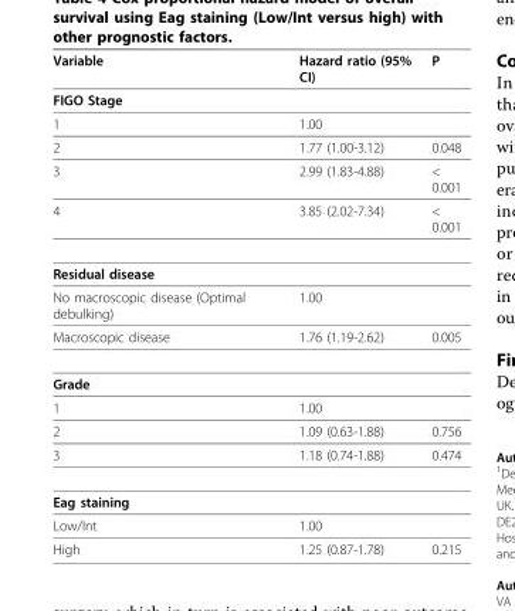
<table><thead><tr><td>Variable</td><td>Hazard ratio (95% CI)</td><td>P</td></tr></thead><tbody><tr><td colspan="3">FIGO Stage</td></tr><tr><td>1</td><td>1.00</td><td></td></tr><tr><td>2</td><td>1.77 (1.00-3.12)</td><td>0.048</td></tr><tr><td>3</td><td>2.99 (1.83-4.88)</td><td>&lt; 0.001</td></tr><tr><td>4</td><td>3.85 (2.02-7.34)</td><td>&lt; 0.001</td></tr><tr><td colspan="3">Residual disease</td></tr><tr><td>No macroscopic disease (Optimal debulking)</td><td>1.00</td><td></td></tr><tr><td>Macroscopic disease</td><td>1.76 (1.19-2.62)</td><td>0.005</td></tr><tr><td colspan="3">Grade</td></tr><tr><td>1</td><td>1.00</td><td></td></tr><tr><td>2</td><td>1.09 (0.63-1.88)</td><td>0.756</td></tr><tr><td>3</td><td>1.18 (0.74-1.88)</td><td>0.474</td></tr><tr><td colspan="3">Eag staining</td></tr><tr><td>Low/Int</td><td>1.00</td><td></td></tr><tr><td>High</td><td>1.25 (0.87-1.78)</td><td>0.215</td></tr></tbody></table>